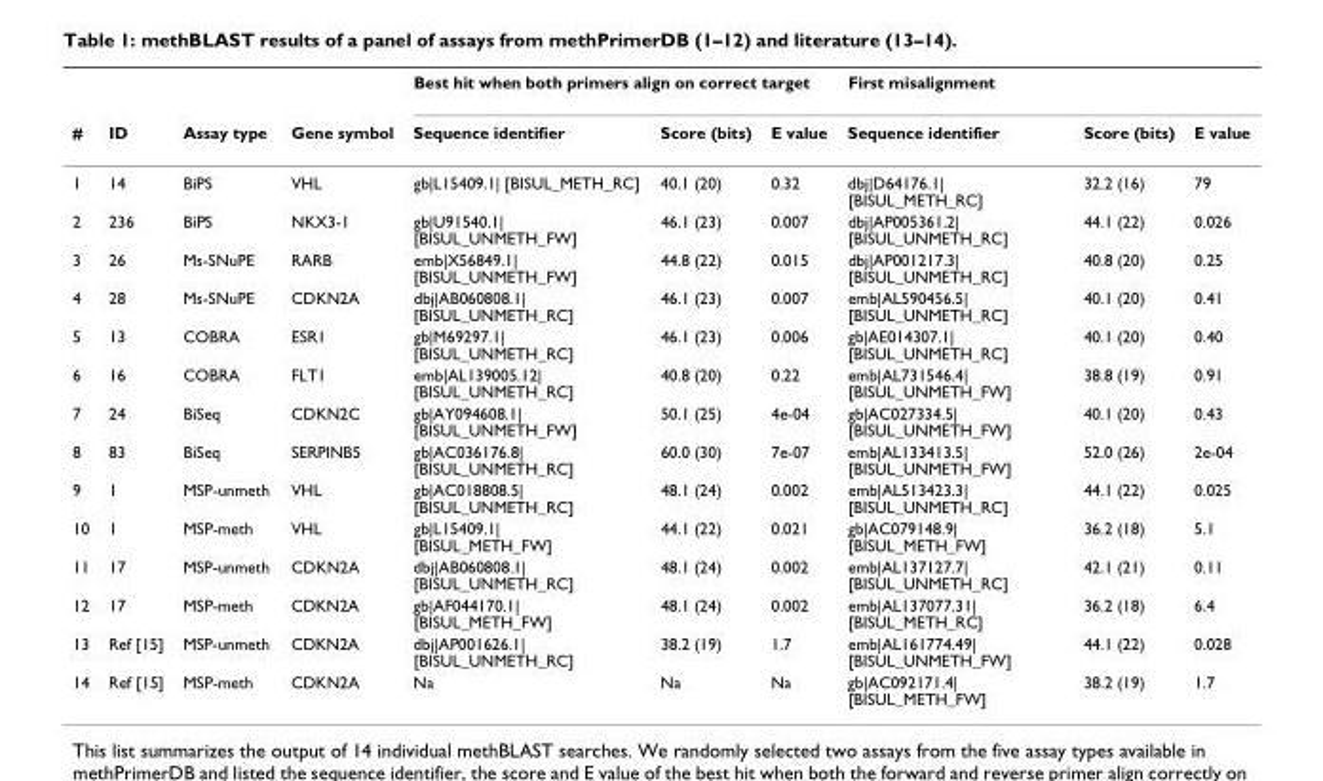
<table><thead><tr><td rowspan="2">#</td><td rowspan="2">ID</td><td rowspan="2">Assay type</td><td rowspan="2">Gene symbol</td><td colspan="3">Best hit when both primers align on correct target</td><td colspan="3">First misalignment</td></tr><tr><td>Sequence identifier</td><td>Score (bits)</td><td>E value</td><td>Sequence identifier</td><td>Score (bits)</td><td>E value</td></tr></thead><tbody><tr><td>1</td><td>14</td><td>BiPS</td><td>VHL</td><td>gb|L15409.1| [BISUL_METH_RC]</td><td>40.1 (20)</td><td>0.32</td><td>dbj|D64176.1| [BISUL_METH_RC]</td><td>32.2 (16)</td><td>79</td></tr><tr><td>2</td><td>236</td><td>BiPS</td><td>NKX3-1</td><td>gb|U91540.1| [BISUL_UNMETH_FW]</td><td>46.1 (23)</td><td>0.007</td><td>dbj|AP005361.2| [BISUL_UNMETH_RC]</td><td>44.1 (22)</td><td>0.026</td></tr><tr><td>3</td><td>26</td><td>Ms-SNuPE</td><td>RARB</td><td>emb|X56849.1| [BISUL_UNMETH_FW]</td><td>44.8 (22)</td><td>0.015</td><td>dbj|AP001217.3| [BISUL_UNMETH_RC]</td><td>40.8 (20)</td><td>0.25</td></tr><tr><td>4</td><td>28</td><td>Ms-SNuPE</td><td>CDKN2A</td><td>dbj|AB060808.1| [BISUL_UNMETH_RC]</td><td>46.1 (23)</td><td>0.007</td><td>emb|AL590456.5| [BISUL_UNMETH_RC]</td><td>40.1 (20)</td><td>0.41</td></tr><tr><td>5</td><td>13</td><td>COBRA</td><td>ESR1</td><td>gb|M69297.1| [BISUL_UNMETH_RC]</td><td>46.1 (23)</td><td>0.006</td><td>gb|AE014307.1| [BISUL_UNMETH_RC]</td><td>40.1 (20)</td><td>0.40</td></tr><tr><td>6</td><td>16</td><td>COBRA</td><td>FLT1</td><td>emb|AL139005.12| [BISUL_UNMETH_RC]</td><td>40.8 (20)</td><td>0.22</td><td>emb|AL731546.4| [BISUL_UNMETH_FW]</td><td>38.8 (19)</td><td>0.91</td></tr><tr><td>7</td><td>24</td><td>BiSeq</td><td>CDKN2C</td><td>gb|AY094608.1| [BISUL_UNMETH_FW]</td><td>50.1 (25)</td><td>4e-04</td><td>gb|AC027334.5| [BISUL_UNMETH_FW]</td><td>40.1 (20)</td><td>0.43</td></tr><tr><td>8</td><td>83</td><td>BiSeq</td><td>SERPINB5</td><td>gb|AC036176.8| [BISUL_UNMETH_RC]</td><td>60.0 (30)</td><td>7e-07</td><td>emb|AL133413.5| [BISUL_UNMETH_FW]</td><td>52.0 (26)</td><td>2e-04</td></tr><tr><td>9</td><td>1</td><td>MSP-unmeth</td><td>VHL</td><td>gb|AC018808.5| [BISUL_UNMETH_RC]</td><td>48.1 (24)</td><td>0.002</td><td>emb|AL513423.3| [BISUL_UNMETH_RC]</td><td>44.1 (22)</td><td>0.025</td></tr><tr><td>10</td><td>1</td><td>MSP-meth</td><td>VHL</td><td>gb|L15409.1| [BISUL_METH_FW]</td><td>44.1 (22)</td><td>0.021</td><td>gb|AC079148.9| [BISUL_METH_FW]</td><td>36.2 (18)</td><td>5.1</td></tr><tr><td>11</td><td>17</td><td>MSP-unmeth</td><td>CDKN2A</td><td>dbj|AB060808.1| [BISUL_UNMETH_RC]</td><td>48.1 (24)</td><td>0.002</td><td>emb|AL137127.7| [BISUL_UNMETH_RC]</td><td>42.1 (21)</td><td>0.11</td></tr><tr><td>12</td><td>17</td><td>MSP-meth</td><td>CDKN2A</td><td>gb|AF044170.1| [BISUL_METH_FW]</td><td>48.1 (24)</td><td>0.002</td><td>emb|AL137077.31| [BISUL_METH_RC]</td><td>36.2 (18)</td><td>6.4</td></tr><tr><td>13</td><td>Ref [15]</td><td>MSP-unmeth</td><td>CDKN2A</td><td>dbj|AP001626.1| [BISUL_UNMETH_RC]</td><td>38.2 (19)</td><td>1.7</td><td>emb|AL161774.49| [BISUL_UNMETH_FW]</td><td>44.1 (22)</td><td>0.028</td></tr><tr><td>14</td><td>Ref [15]</td><td>MSP-meth</td><td>CDKN2A</td><td>Na</td><td>Na</td><td>Na</td><td>gb|AC092171.4| [BISUL_METH_FW]</td><td>38.2 (19)</td><td>1.7</td></tr></tbody></table>